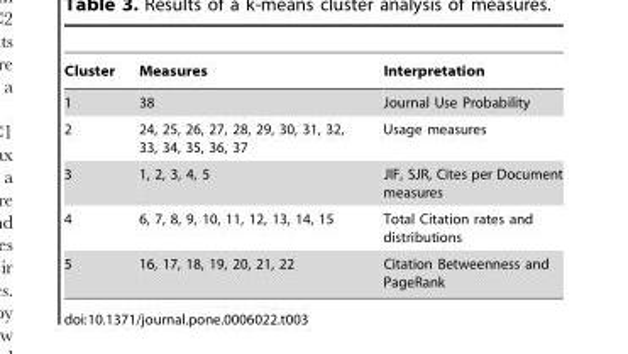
<table><thead><tr><td>Cluster</td><td>Measures</td><td>Interpretation</td></tr></thead><tbody><tr><td>1</td><td>38</td><td>Journal Use Probability</td></tr><tr><td>2</td><td>24, 25, 26, 27, 28, 29, 30, 31, 32, 33, 34, 35, 36, 37</td><td>Usage measures</td></tr><tr><td>3</td><td>1, 2, 3, 4, 5</td><td>JIF, SJR, Cites per Document measures</td></tr><tr><td>4</td><td>6, 7, 8, 9, 10, 11, 12, 13, 14, 15</td><td>Total Citation rates and distributions</td></tr><tr><td>5</td><td>16, 17, 18, 19, 20, 21, 22</td><td>Citation Betweenness and PageRank</td></tr></tbody></table>